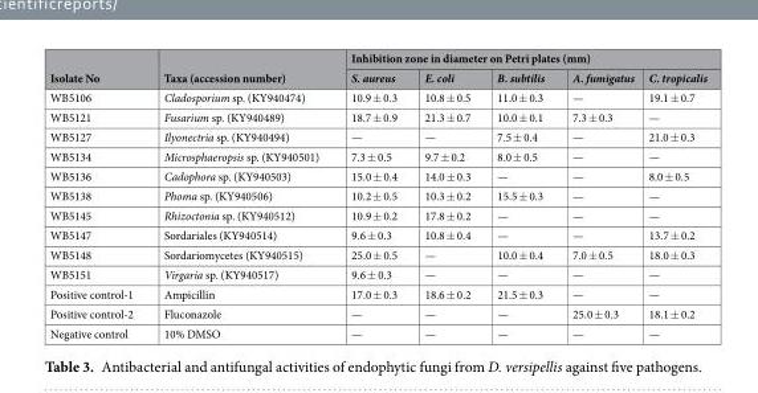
<table><thead><tr><td rowspan="2">Isolate No</td><td rowspan="2">Taxa (accession number)</td><td colspan="5">Inhibition zone in diameter on Petri plates (mm)</td></tr><tr><td>S. aureus</td><td>E. coli</td><td>B. subtilis</td><td>A. fumigatus</td><td>C. tropicalis</td></tr></thead><tbody><tr><td>WB5106</td><td>Cladosporium sp. (KY940474)</td><td>10.9 ± 0.3</td><td>10.8 ± 0.5</td><td>11.0 ± 0.3</td><td>—</td><td>19.1 ± 0.7</td></tr><tr><td>WB5121</td><td>Fusarium sp. (KY940489)</td><td>18.7 ± 0.9</td><td>21.3 ± 0.7</td><td>10.0 ± 0.1</td><td>7.3 ± 0.3</td><td>—</td></tr><tr><td>WB5127</td><td>Ilyonectria sp. (KY940494)</td><td>—</td><td>—</td><td>7.5 ± 0.4</td><td>—</td><td>21.0 ± 0.3</td></tr><tr><td>WB5134</td><td>Microsphaeropsis sp. (KY940501)</td><td>7.3 ± 0.5</td><td>9.7 ± 0.2</td><td>8.0 ± 0.5</td><td>—</td><td>—</td></tr><tr><td>WB5136</td><td>Cadophora sp. (KY940503)</td><td>15.0 ± 0.4</td><td>14.0 ± 0.3</td><td>—</td><td>—</td><td>8.0 ± 0.5</td></tr><tr><td>WB5138</td><td>Phoma sp. (KY940506)</td><td>10.2 ± 0.5</td><td>10.3 ± 0.2</td><td>15.5 ± 0.3</td><td>—</td><td>—</td></tr><tr><td>WB5145</td><td>Rhizoctonia sp. (KY940512)</td><td>10.9 ± 0.2</td><td>17.8 ± 0.2</td><td>—</td><td>—</td><td>—</td></tr><tr><td>WB5147</td><td>Sordariales (KY940514)</td><td>9.6 ± 0.3</td><td>10.8 ± 0.4</td><td>—</td><td>—</td><td>13.7 ± 0.2</td></tr><tr><td>WB5148</td><td>Sordariomycetes (KY940515)</td><td>25.0 ± 0.5</td><td>—</td><td>10.0 ± 0.4</td><td>7.0 ± 0.5</td><td>18.0 ± 0.3</td></tr><tr><td>WB5151</td><td>Virgaria sp. (KY940517)</td><td>9.6 ± 0.3</td><td>—</td><td>—</td><td>—</td><td>—</td></tr><tr><td>Positive control-1</td><td>Ampicillin</td><td>17.0 ± 0.3</td><td>18.6 ± 0.2</td><td>21.5 ± 0.3</td><td>—</td><td>—</td></tr><tr><td>Positive control-2</td><td>Fluconazole</td><td>—</td><td>—</td><td>—</td><td>25.0 ± 0.3</td><td>18.1 ± 0.2</td></tr><tr><td>Negative control</td><td>10% DMSO</td><td>—</td><td>—</td><td>—</td><td>—</td><td>—</td></tr></tbody></table>